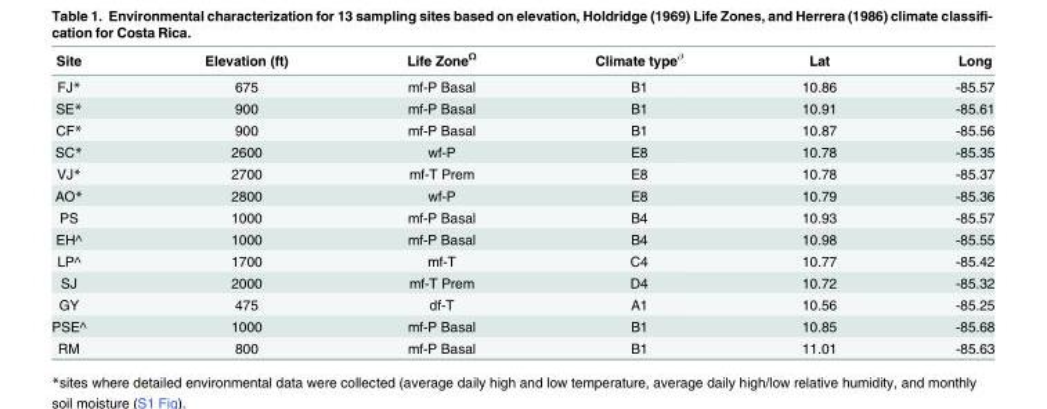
<table><thead><tr><td>Site</td><td>Elevation (ft)</td><td>Life Zone<sup>Ω</sup></td><td>Climate type<sup>∂</sup></td><td>Lat</td><td>Long</td></tr></thead><tbody><tr><td>FJ*</td><td>675</td><td>mf-P Basal</td><td>B1</td><td>10.86</td><td>-85.57</td></tr><tr><td>SE*</td><td>900</td><td>mf-P Basal</td><td>B1</td><td>10.91</td><td>-85.61</td></tr><tr><td>CF*</td><td>900</td><td>mf-P Basal</td><td>B1</td><td>10.87</td><td>-85.56</td></tr><tr><td>SC*</td><td>2600</td><td>wf-P</td><td>E8</td><td>10.78</td><td>-85.35</td></tr><tr><td>VJ*</td><td>2700</td><td>mf-T Prem</td><td>E8</td><td>10.78</td><td>-85.37</td></tr><tr><td>AO*</td><td>2800</td><td>wf-P</td><td>E8</td><td>10.79</td><td>-85.36</td></tr><tr><td>PS</td><td>1000</td><td>mf-P Basal</td><td>B4</td><td>10.93</td><td>-85.57</td></tr><tr><td>EH^</td><td>1000</td><td>mf-P Basal</td><td>B4</td><td>10.98</td><td>-85.55</td></tr><tr><td>LP^</td><td>1700</td><td>mf-T</td><td>C4</td><td>10.77</td><td>-85.42</td></tr><tr><td>SJ</td><td>2000</td><td>mf-T Prem</td><td>D4</td><td>10.72</td><td>-85.32</td></tr><tr><td>GY</td><td>475</td><td>df-T</td><td>A1</td><td>10.56</td><td>-85.25</td></tr><tr><td>PSE^</td><td>1000</td><td>mf-P Basal</td><td>B1</td><td>10.85</td><td>-85.68</td></tr><tr><td>RM</td><td>800</td><td>mf-P Basal</td><td>B1</td><td>11.01</td><td>-85.63</td></tr></tbody></table>